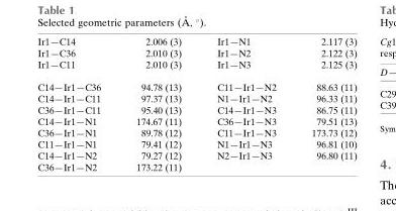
<table><tbody><tr><td>Ir1—C14</td><td>2.006 (3)</td><td>Ir1—N1</td><td>2.117 (3)</td></tr><tr><td>Ir1—C36</td><td>2.010 (3)</td><td>Ir1—N2</td><td>2.122 (3)</td></tr><tr><td>Ir1—C11</td><td>2.010 (3)</td><td>Ir1—N3</td><td>2.125 (3)</td></tr><tr><td>C14—Ir1—C36</td><td>94.78 (13)</td><td>C11—Ir1—N2</td><td>88.63 (11)</td></tr><tr><td>C14—Ir1—C11</td><td>97.37 (13)</td><td>N1—Ir1—N2</td><td>96.33 (11)</td></tr><tr><td>C36—Ir1—C11</td><td>95.40 (13)</td><td>C14—Ir1—N3</td><td>86.75 (11)</td></tr><tr><td>C14—Ir1—N1</td><td>174.67 (11)</td><td>C36—Ir1—N3</td><td>79.51 (13)</td></tr><tr><td>C36—Ir1—N1</td><td>89.78 (12)</td><td>C11—Ir1—N3</td><td>173.73 (12)</td></tr><tr><td>C11—Ir1—N1</td><td>79.41 (12)</td><td>N1—Ir1—N3</td><td>96.81 (10)</td></tr><tr><td>C14—Ir1—N2</td><td>79.27 (12)</td><td>N2—Ir1—N3</td><td>96.80 (11)</td></tr><tr><td>C36—Ir1—N2</td><td>173.22 (11)</td><td></td><td></td></tr></tbody></table>